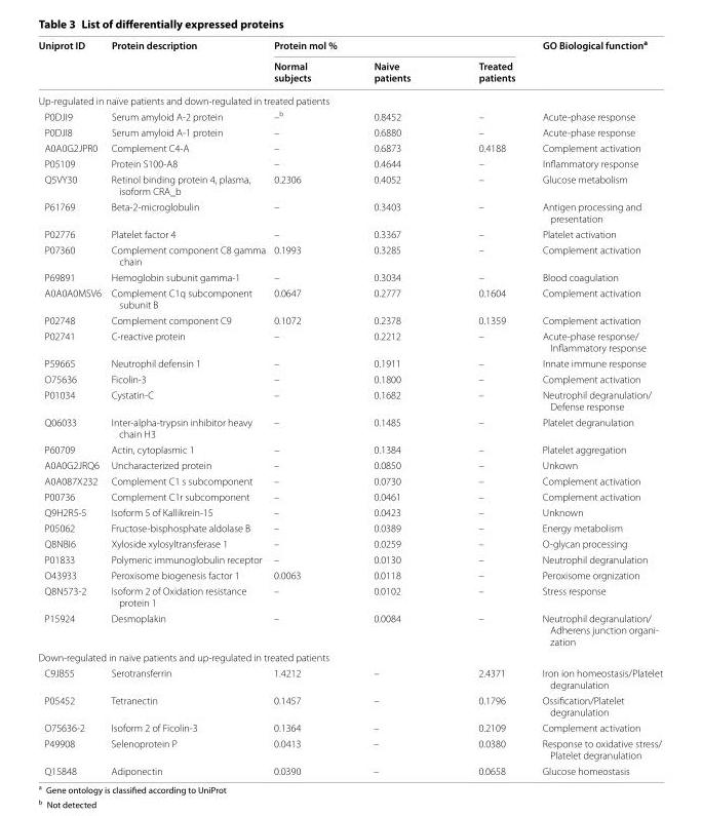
<table><thead><tr><td rowspan="2">Uniprot ID</td><td rowspan="2">Protein description</td><td colspan="3">Protein mol %</td><td rowspan="2">GO Biological function<sup>a</sup></td></tr><tr><td>Normal subjects</td><td>Naive patients</td><td>Treated patients</td></tr></thead><tbody><tr><td colspan="6">Up‑regulated in naïve patients and down‑regulated in treated patients</td></tr><tr><td>P0DJI9</td><td>Serum amyloid A‑2 protein</td><td>–<sup>b</sup></td><td>0.8452</td><td>–</td><td>Acute‑phase response</td></tr><tr><td>P0DJI8</td><td>Serum amyloid A‑1 protein</td><td>–</td><td>0.6880</td><td>–</td><td>Acute‑phase response</td></tr><tr><td>A0A0G2JPR0</td><td>Complement C4‑A</td><td>–</td><td>0.6873</td><td>0.4188</td><td>Complement activation</td></tr><tr><td>P05109</td><td>Protein S100‑A8</td><td>–</td><td>0.4644</td><td>–</td><td>Inflammatory response</td></tr><tr><td>Q5VY30</td><td>Retinol binding protein 4, plasma, isoform CRA_b</td><td>0.2306</td><td>0.4052</td><td>–</td><td>Glucose metabolism</td></tr><tr><td>P61769</td><td>Beta‑2‑microglobulin</td><td>–</td><td>0.3403</td><td>–</td><td>Antigen processing and presentation</td></tr><tr><td>P02776</td><td>Platelet factor 4</td><td>–</td><td>0.3367</td><td>–</td><td>Platelet activation</td></tr><tr><td>P07360</td><td>Complement component C8 gamma chain</td><td>0.1993</td><td>0.3285</td><td>–</td><td>Complement activation</td></tr><tr><td>P69891</td><td>Hemoglobin subunit gamma‑1</td><td>–</td><td>0.3034</td><td>–</td><td>Blood coagulation</td></tr><tr><td>A0A0A0MSV6</td><td>Complement C1q subcomponent subunit B</td><td>0.0647</td><td>0.2777</td><td>0.1604</td><td>Complement activation</td></tr><tr><td>P02748</td><td>Complement component C9</td><td>0.1072</td><td>0.2378</td><td>0.1359</td><td>Complement activation</td></tr><tr><td>P02741</td><td>C‑reactive protein</td><td>–</td><td>0.2212</td><td>–</td><td>Acute‑phase response/ Inflammatory response</td></tr><tr><td>P59665</td><td>Neutrophil defensin 1</td><td>–</td><td>0.1911</td><td>–</td><td>Innate immune response</td></tr><tr><td>O75636</td><td>Ficolin‑3</td><td>–</td><td>0.1800</td><td>–</td><td>Complement activation</td></tr><tr><td>P01034</td><td>Cystatin‑C</td><td>–</td><td>0.1682</td><td>–</td><td>Neutrophil degranulation/ Defense response</td></tr><tr><td>Q06033</td><td>Inter‑alpha‑trypsin inhibitor heavy chain H3</td><td>–</td><td>0.1485</td><td>–</td><td>Platelet degranulation</td></tr><tr><td>P60709</td><td>Actin, cytoplasmic 1</td><td>–</td><td>0.1384</td><td>–</td><td>Platelet aggregation</td></tr><tr><td>A0A0G2JRQ6</td><td>Uncharacterized protein</td><td>–</td><td>0.0850</td><td>–</td><td>Unkown</td></tr><tr><td>A0A087X232</td><td>Complement C1 s subcomponent</td><td>–</td><td>0.0730</td><td>–</td><td>Complement activation</td></tr><tr><td>P00736</td><td>Complement C1r subcomponent</td><td>–</td><td>0.0461</td><td>–</td><td>Complement activation</td></tr><tr><td>Q9H2R5‑5</td><td>Isoform 5 of Kallikrein‑15</td><td>–</td><td>0.0423</td><td>–</td><td>Unknown</td></tr><tr><td>P05062</td><td>Fructose‑bisphosphate aldolase B</td><td>–</td><td>0.0389</td><td>–</td><td>Energy metabolism</td></tr><tr><td>Q8NBI6</td><td>Xyloside xylosyltransferase 1</td><td>–</td><td>0.0259</td><td>–</td><td>O‑glycan processing</td></tr><tr><td>P01833</td><td>Polymeric immunoglobulin receptor</td><td>–</td><td>0.0130</td><td>–</td><td>Neutrophil degranulation</td></tr><tr><td>O43933</td><td>Peroxisome biogenesis factor 1</td><td>0.0063</td><td>0.0118</td><td>–</td><td>Peroxisome orgnization</td></tr><tr><td>Q8N573‑2</td><td>Isoform 2 of Oxidation resistance protein 1</td><td>–</td><td>0.0102</td><td>–</td><td>Stress response</td></tr><tr><td>P15924</td><td>Desmoplakin</td><td>–</td><td>0.0084</td><td>–</td><td>Neutrophil degranulation/ Adherens junction organi‑ zation</td></tr><tr><td colspan="6">Down‑regulated in naïve patients and up‑regulated in treated patients</td></tr><tr><td>C9JB55</td><td>Serotransferrin</td><td>1.4212</td><td>–</td><td>2.4371</td><td>Iron ion homeostasis/Platelet degranulation</td></tr><tr><td>P05452</td><td>Tetranectin</td><td>0.1457</td><td>–</td><td>0.1796</td><td>Ossification/Platelet degranulation</td></tr><tr><td>O75636‑2</td><td>Isoform 2 of Ficolin‑3</td><td>0.1364</td><td>–</td><td>0.2109</td><td>Complement activation</td></tr><tr><td>P49908</td><td>Selenoprotein P</td><td>0.0413</td><td>–</td><td>0.0380</td><td>Response to oxidative stress/ Platelet degranulation</td></tr><tr><td>Q15848</td><td>Adiponectin</td><td>0.0390</td><td>–</td><td>0.0658</td><td>Glucose homeostasis</td></tr></tbody></table>